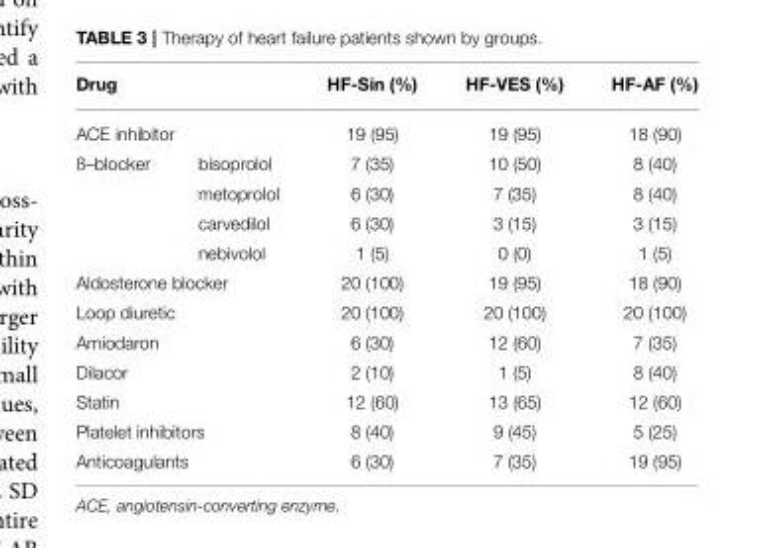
<table><thead><tr><td>Drug</td><td></td><td>HF-Sin (%)</td><td>HF-VES (%)</td><td>HF-AF (%)</td></tr></thead><tbody><tr><td colspan="2">ACE inhibitor</td><td>19 (95)</td><td>19 (95)</td><td>18 (90)</td></tr><tr><td rowspan="4">ß–blocker</td><td>bisoprolol</td><td>7 (35)</td><td>10 (50)</td><td>8 (40)</td></tr><tr><td>metoprolol</td><td>6 (30)</td><td>7 (35)</td><td>8 (40)</td></tr><tr><td>carvedilol</td><td>6 (30)</td><td>3 (15)</td><td>3 (15)</td></tr><tr><td>nebivolol</td><td>1 (5)</td><td>0 (0)</td><td>1 (5)</td></tr><tr><td colspan="2">Aldosterone blocker</td><td>20 (100)</td><td>19 (95)</td><td>18 (90)</td></tr><tr><td colspan="2">Loop diuretic</td><td>20 (100)</td><td>20 (100)</td><td>20 (100)</td></tr><tr><td colspan="2">Amiodaron</td><td>6 (30)</td><td>12 (60)</td><td>7 (35)</td></tr><tr><td colspan="2">Dilacor</td><td>2 (10)</td><td>1 (5)</td><td>8 (40)</td></tr><tr><td colspan="2">Statin</td><td>12 (60)</td><td>13 (65)</td><td>12 (60)</td></tr><tr><td colspan="2">Platelet inhibitors</td><td>8 (40)</td><td>9 (45)</td><td>5 (25)</td></tr><tr><td colspan="2">Anticoagulants</td><td>6 (30)</td><td>7 (35)</td><td>19 (95)</td></tr></tbody></table>